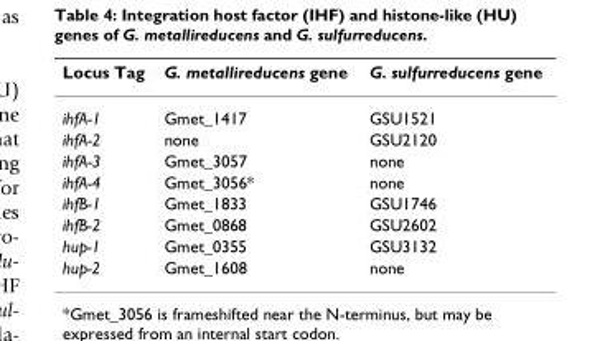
<table><thead><tr><td>Locus Tag</td><td>G. metallireducens gene</td><td>G. sulfurreducens gene</td></tr></thead><tbody><tr><td>ihfA-1</td><td>Gmet_1417</td><td>GSU1521</td></tr><tr><td>ihfA-2</td><td>none</td><td>GSU2120</td></tr><tr><td>ihfA-3</td><td>Gmet_3057</td><td>none</td></tr><tr><td>ihfA-4</td><td>Gmet_3056*</td><td>none</td></tr><tr><td>ihfB-1</td><td>Gmet_1833</td><td>GSU1746</td></tr><tr><td>ihfB-2</td><td>Gmet_0868</td><td>GSU2602</td></tr><tr><td>hup-1</td><td>Gmet_0355</td><td>GSU3132</td></tr><tr><td>hup-2</td><td>Gmet_1608</td><td>none</td></tr></tbody></table>